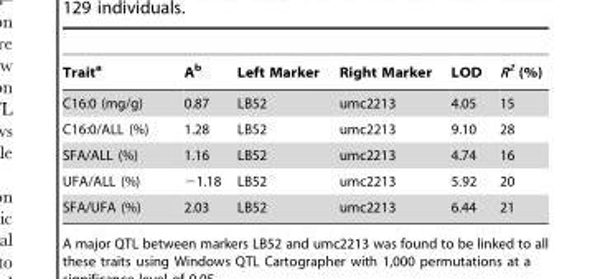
<table><thead><tr><td>Trait<sup>a</sup></td><td>A<sup>b</sup></td><td>Left Marker</td><td>Right Marker</td><td>LOD</td><td>R<sup>2</sup> (%)</td></tr></thead><tbody><tr><td>C16:0 (mg/g)</td><td>0.87</td><td>LB52</td><td>umc2213</td><td>4.05</td><td>15</td></tr><tr><td>C16:0/ALL (%)</td><td>1.28</td><td>LB52</td><td>umc2213</td><td>9.10</td><td>28</td></tr><tr><td>SFA/ALL (%)</td><td>1.16</td><td>LB52</td><td>umc2213</td><td>4.74</td><td>16</td></tr><tr><td>UFA/ALL (%)</td><td>−1.18</td><td>LB52</td><td>umc2213</td><td>5.92</td><td>20</td></tr><tr><td>SFA/UFA (%)</td><td>2.03</td><td>LB52</td><td>umc2213</td><td>6.44</td><td>21</td></tr></tbody></table>